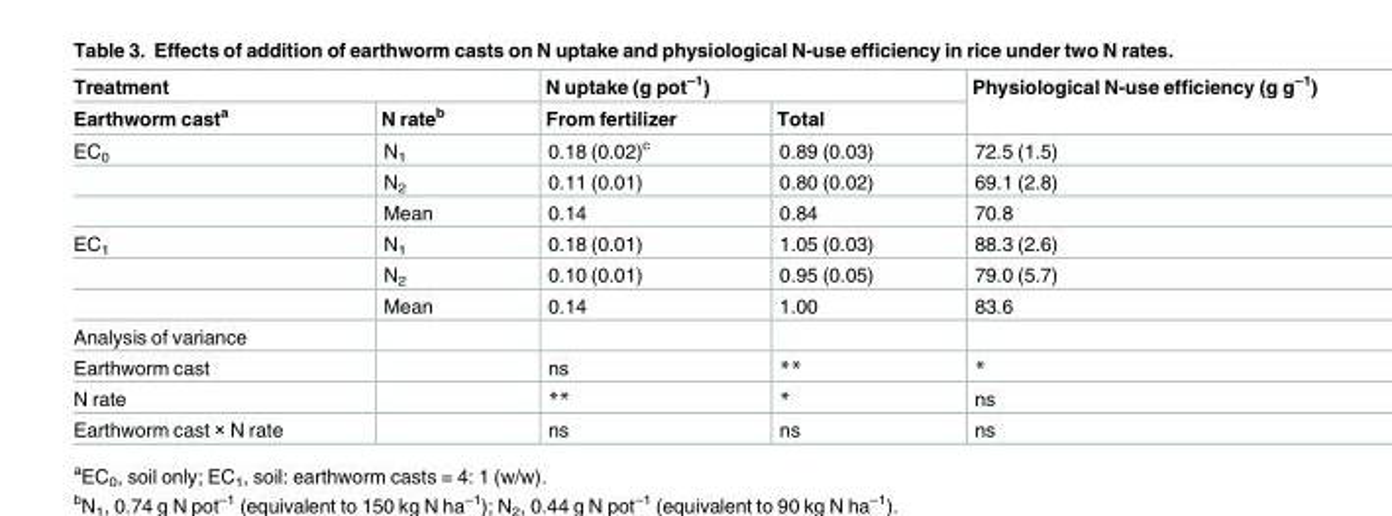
<table><thead><tr><td colspan="2">Treatment</td><td colspan="2">N uptake (g pot<sup>–1</sup>)</td><td rowspan="2">Physiological N-use efficiency (g g<sup>–1</sup>)</td></tr><tr><td>Earthworm cast<sup>a</sup></td><td>N rate<sup>b</sup></td><td>From fertilizer</td><td>Total</td></tr></thead><tbody><tr><td rowspan="3">EC<sub>0</sub></td><td>N<sub>1</sub></td><td>0.18 (0.02)<sup>c</sup></td><td>0.89 (0.03)</td><td>72.5 (1.5)</td></tr><tr><td>N<sub>2</sub></td><td>0.11 (0.01)</td><td>0.80 (0.02)</td><td>69.1 (2.8)</td></tr><tr><td>Mean</td><td>0.14</td><td>0.84</td><td>70.8</td></tr><tr><td rowspan="3">EC<sub>1</sub></td><td>N<sub>1</sub></td><td>0.18 (0.01)</td><td>1.05 (0.03)</td><td>88.3 (2.6)</td></tr><tr><td>N<sub>2</sub></td><td>0.10 (0.01)</td><td>0.95 (0.05)</td><td>79.0 (5.7)</td></tr><tr><td>Mean</td><td>0.14</td><td>1.00</td><td>83.6</td></tr><tr><td colspan="5">Analysis of variance</td></tr><tr><td>Earthworm cast</td><td></td><td>ns</td><td>**</td><td>*</td></tr><tr><td>N rate</td><td></td><td>**</td><td>*</td><td>ns</td></tr><tr><td>Earthworm cast × N rate</td><td></td><td>ns</td><td>ns</td><td>ns</td></tr></tbody></table>